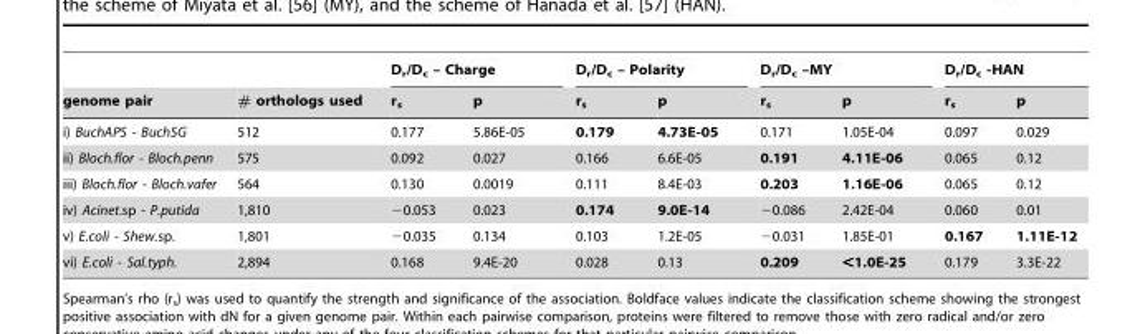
<table><thead><tr><td rowspan="2">genome pair</td><td rowspan="2"># orthologs used</td><td colspan="2">D<sub>r</sub>/D<sub>c</sub> – Charge</td><td colspan="2">D<sub>r</sub>/D<sub>c</sub> – Polarity</td><td colspan="2">D<sub>r</sub>/D<sub>c</sub> –MY</td><td colspan="2">D<sub>r</sub>/D<sub>c</sub> -HAN</td></tr><tr><td>r<sub>s</sub></td><td>p</td><td>r<sub>s</sub></td><td>p</td><td>r<sub>s</sub></td><td>p</td><td>r<sub>s</sub></td><td>p</td></tr></thead><tbody><tr><td>i) BuchAPS - BuchSG</td><td>512</td><td>0.177</td><td>5.86E-05</td><td>0.179</td><td>4.73E-05</td><td>0.171</td><td>1.05E-04</td><td>0.097</td><td>0.029</td></tr><tr><td>ii) Bloch.flor - Bloch.penn</td><td>575</td><td>0.092</td><td>0.027</td><td>0.166</td><td>6.6E-05</td><td>0.191</td><td>4.11E-06</td><td>0.065</td><td>0.12</td></tr><tr><td>iii) Bloch.flor - Bloch.vafer</td><td>564</td><td>0.130</td><td>0.0019</td><td>0.111</td><td>8.4E-03</td><td>0.203</td><td>1.16E-06</td><td>0.065</td><td>0.12</td></tr><tr><td>iv) Acinet.sp - P.putida</td><td>1,810</td><td>−0.053</td><td>0.023</td><td>0.174</td><td>9.0E-14</td><td>−0.086</td><td>2.42E-04</td><td>0.060</td><td>0.01</td></tr><tr><td>v) E.coli - Shew.sp.</td><td>1,801</td><td>−0.035</td><td>0.134</td><td>0.103</td><td>1.2E-05</td><td>−0.031</td><td>1.85E-01</td><td>0.167</td><td>1.11E-12</td></tr><tr><td>vi) E.coli - Sal.typh.</td><td>2,894</td><td>0.168</td><td>9.4E-20</td><td>0.028</td><td>0.13</td><td>0.209</td><td>&lt;1.0E-25</td><td>0.179</td><td>3.3E-22</td></tr></tbody></table>